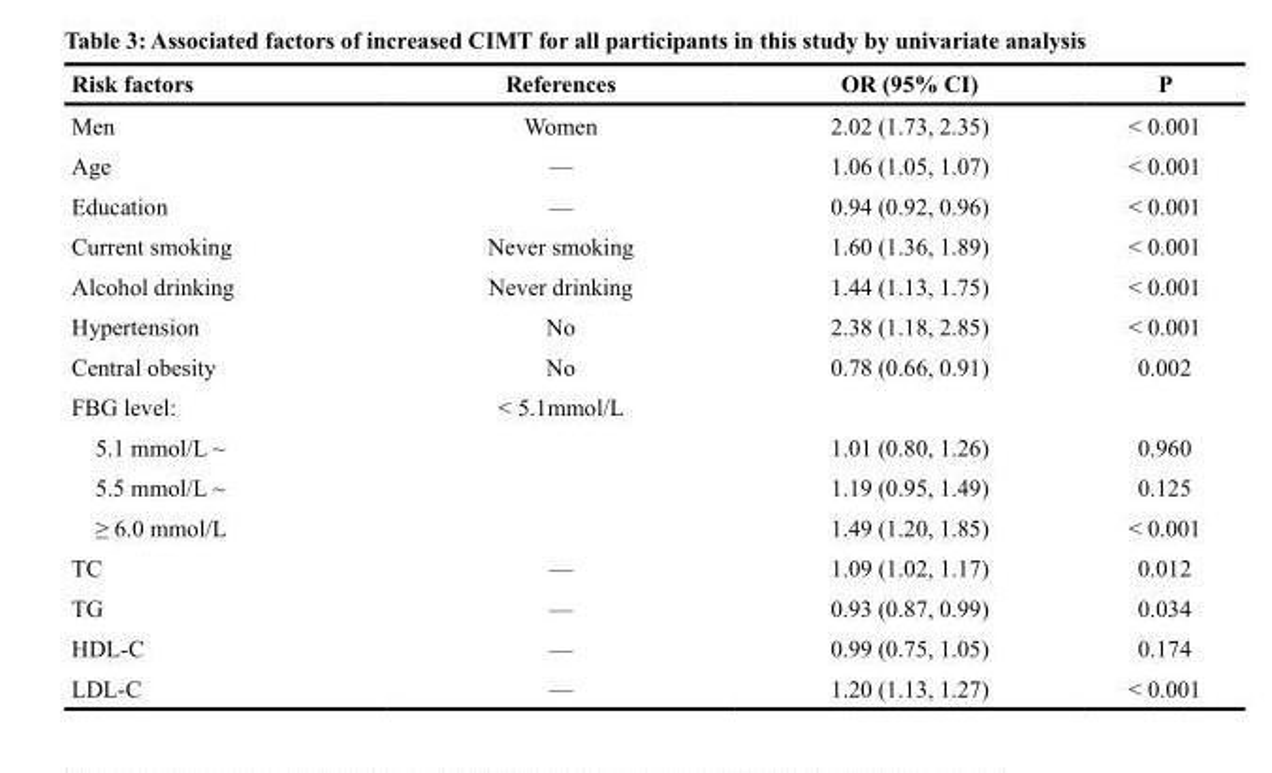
<table><thead><tr><td>Risk factors</td><td>References</td><td>OR (95% CI)</td><td>P</td></tr></thead><tbody><tr><td>Men</td><td>Women</td><td>2.02 (1.73, 2.35)</td><td>&lt; 0.001</td></tr><tr><td>Age</td><td>—</td><td>1.06 (1.05, 1.07)</td><td>&lt; 0.001</td></tr><tr><td>Education</td><td>—</td><td>0.94 (0.92, 0.96)</td><td>&lt; 0.001</td></tr><tr><td>Current smoking</td><td>Never smoking</td><td>1.60 (1.36, 1.89)</td><td>&lt; 0.001</td></tr><tr><td>Alcohol drinking</td><td>Never drinking</td><td>1.44 (1.13, 1.75)</td><td>&lt; 0.001</td></tr><tr><td>Hypertension</td><td>No</td><td>2.38 (1.18, 2.85)</td><td>&lt; 0.001</td></tr><tr><td>Central obesity</td><td>No</td><td>0.78 (0.66, 0.91)</td><td>0.002</td></tr><tr><td>FBG level:</td><td>&lt; 5.1mmol/L</td><td></td><td></td></tr><tr><td>5.1 mmol/L ~</td><td></td><td>1.01 (0.80, 1.26)</td><td>0.960</td></tr><tr><td>5.5 mmol/L ~</td><td></td><td>1.19 (0.95, 1.49)</td><td>0.125</td></tr><tr><td>≥ 6.0 mmol/L</td><td></td><td>1.49 (1.20, 1.85)</td><td>&lt; 0.001</td></tr><tr><td>TC</td><td>—</td><td>1.09 (1.02, 1.17)</td><td>0.012</td></tr><tr><td>TG</td><td>—</td><td>0.93 (0.87, 0.99)</td><td>0.034</td></tr><tr><td>HDL-C</td><td>—</td><td>0.99 (0.75, 1.05)</td><td>0.174</td></tr><tr><td>LDL-C</td><td>—</td><td>1.20 (1.13, 1.27)</td><td>&lt; 0.001</td></tr></tbody></table>